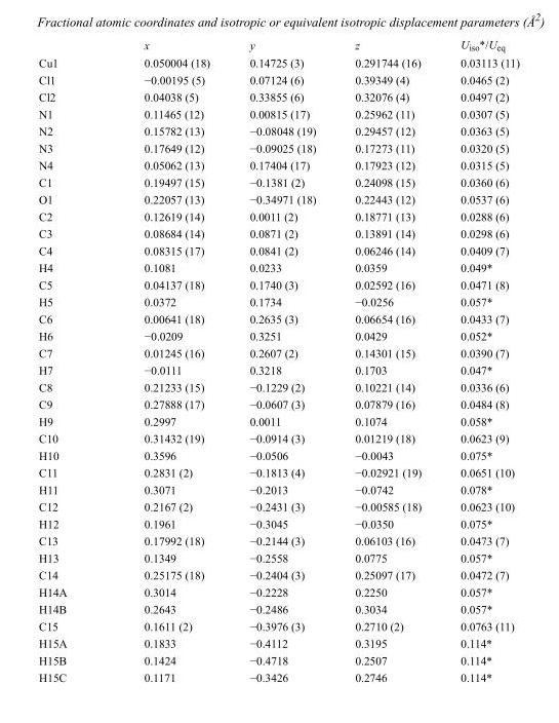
<table><thead><tr><td></td><td>x</td><td>y</td><td>z</td><td>U<sub>iso</sub>*/U<sub>eq</sub></td></tr></thead><tbody><tr><td>Cu1</td><td>0.050004 (18)</td><td>0.14725 (3)</td><td>0.291744 (16)</td><td>0.03113 (11)</td></tr><tr><td>Cl1</td><td>−0.00195 (5)</td><td>0.07124 (6)</td><td>0.39349 (4)</td><td>0.0465 (2)</td></tr><tr><td>Cl2</td><td>0.04038 (5)</td><td>0.33855 (6)</td><td>0.32076 (4)</td><td>0.0497 (2)</td></tr><tr><td>N1</td><td>0.11465 (12)</td><td>0.00815 (17)</td><td>0.25962 (11)</td><td>0.0307 (5)</td></tr><tr><td>N2</td><td>0.15782 (13)</td><td>−0.08048 (19)</td><td>0.29457 (12)</td><td>0.0363 (5)</td></tr><tr><td>N3</td><td>0.17649 (12)</td><td>−0.09025 (18)</td><td>0.17273 (11)</td><td>0.0320 (5)</td></tr><tr><td>N4</td><td>0.05062 (13)</td><td>0.17404 (17)</td><td>0.17923 (12)</td><td>0.0315 (5)</td></tr><tr><td>C1</td><td>0.19497 (15)</td><td>−0.1381 (2)</td><td>0.24098 (15)</td><td>0.0360 (6)</td></tr><tr><td>O1</td><td>0.22057 (13)</td><td>−0.34971 (18)</td><td>0.22443 (12)</td><td>0.0537 (6)</td></tr><tr><td>C2</td><td>0.12619 (14)</td><td>0.0011 (2)</td><td>0.18771 (13)</td><td>0.0288 (6)</td></tr><tr><td>C3</td><td>0.08684 (14)</td><td>0.0871 (2)</td><td>0.13891 (14)</td><td>0.0298 (6)</td></tr><tr><td>C4</td><td>0.08315 (17)</td><td>0.0841 (2)</td><td>0.06246 (14)</td><td>0.0409 (7)</td></tr><tr><td>H4</td><td>0.1081</td><td>0.0233</td><td>0.0359</td><td>0.049*</td></tr><tr><td>C5</td><td>0.04137 (18)</td><td>0.1740 (3)</td><td>0.02592 (16)</td><td>0.0471 (8)</td></tr><tr><td>H5</td><td>0.0372</td><td>0.1734</td><td>−0.0256</td><td>0.057*</td></tr><tr><td>C6</td><td>0.00641 (18)</td><td>0.2635 (3)</td><td>0.06654 (16)</td><td>0.0433 (7)</td></tr><tr><td>H6</td><td>−0.0209</td><td>0.3251</td><td>0.0429</td><td>0.052*</td></tr><tr><td>C7</td><td>0.01245 (16)</td><td>0.2607 (2)</td><td>0.14301 (15)</td><td>0.0390 (7)</td></tr><tr><td>H7</td><td>−0.0111</td><td>0.3218</td><td>0.1703</td><td>0.047*</td></tr><tr><td>C8</td><td>0.21233 (15)</td><td>−0.1229 (2)</td><td>0.10221 (14)</td><td>0.0336 (6)</td></tr><tr><td>C9</td><td>0.27888 (17)</td><td>−0.0607 (3)</td><td>0.07879 (16)</td><td>0.0484 (8)</td></tr><tr><td>H9</td><td>0.2997</td><td>0.0011</td><td>0.1074</td><td>0.058*</td></tr><tr><td>C10</td><td>0.31432 (19)</td><td>−0.0914 (3)</td><td>0.01219 (18)</td><td>0.0623 (9)</td></tr><tr><td>H10</td><td>0.3596</td><td>−0.0506</td><td>−0.0043</td><td>0.075*</td></tr><tr><td>C11</td><td>0.2831 (2)</td><td>−0.1813 (4)</td><td>−0.02921 (19)</td><td>0.0651 (10)</td></tr><tr><td>H11</td><td>0.3071</td><td>−0.2013</td><td>−0.0742</td><td>0.078*</td></tr><tr><td>C12</td><td>0.2167 (2)</td><td>−0.2431 (3)</td><td>−0.00585 (18)</td><td>0.0623 (10)</td></tr><tr><td>H12</td><td>0.1961</td><td>−0.3045</td><td>−0.0350</td><td>0.075*</td></tr><tr><td>C13</td><td>0.17992 (18)</td><td>−0.2144 (3)</td><td>0.06103 (16)</td><td>0.0473 (7)</td></tr><tr><td>H13</td><td>0.1349</td><td>−0.2558</td><td>0.0775</td><td>0.057*</td></tr><tr><td>C14</td><td>0.25175 (18)</td><td>−0.2404 (3)</td><td>0.25097 (17)</td><td>0.0472 (7)</td></tr><tr><td>H14A</td><td>0.3014</td><td>−0.2228</td><td>0.2250</td><td>0.057*</td></tr><tr><td>H14B</td><td>0.2643</td><td>−0.2486</td><td>0.3034</td><td>0.057*</td></tr><tr><td>C15</td><td>0.1611 (2)</td><td>−0.3976 (3)</td><td>0.2710 (2)</td><td>0.0763 (11)</td></tr><tr><td>H15A</td><td>0.1833</td><td>−0.4112</td><td>0.3195</td><td>0.114*</td></tr><tr><td>H15B</td><td>0.1424</td><td>−0.4718</td><td>0.2507</td><td>0.114*</td></tr><tr><td>H15C</td><td>0.1171</td><td>−0.3426</td><td>0.2746</td><td>0.114*</td></tr></tbody></table>